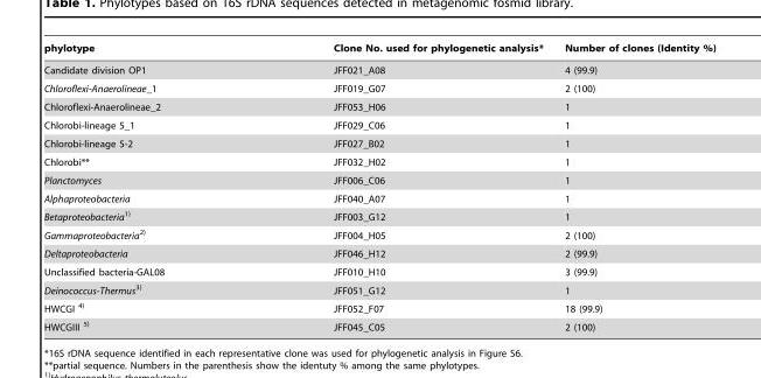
<table><thead><tr><td>phylotype</td><td>Clone No. used for phylogenetic analysis*</td><td>Number of clones (Identity %)</td></tr></thead><tbody><tr><td>Candidate division OP1</td><td>JFF021_A08</td><td>4 (99.9)</td></tr><tr><td>Chloroflexi-Anaerolineae_1</td><td>JFF019_G07</td><td>2 (100)</td></tr><tr><td>Chloroflexi-Anaerolineae_2</td><td>JFF053_H06</td><td>1</td></tr><tr><td>Chlorobi-lineage 5_1</td><td>JFF029_C06</td><td>1</td></tr><tr><td>Chlorobi-lineage 5-2</td><td>JFF027_B02</td><td>1</td></tr><tr><td>Chlorobi**</td><td>JFF032_H02</td><td>1</td></tr><tr><td>Planctomyces</td><td>JFF006_C06</td><td>1</td></tr><tr><td>Alphaproteobacteria</td><td>JFF040_A07</td><td>1</td></tr><tr><td>Betaproteobacteria1)</td><td>JFF003_G12</td><td>1</td></tr><tr><td>Gammaproteobacteria2)</td><td>JFF004_H05</td><td>2 (100)</td></tr><tr><td>Deltaproteobacteria</td><td>JFF046_H12</td><td>2 (99.9)</td></tr><tr><td>Unclassified bacteria-GAL08</td><td>JFF010_H10</td><td>3 (99.9)</td></tr><tr><td>Deinococcus-Thermus3)</td><td>JFF051_G12</td><td>1</td></tr><tr><td>HWCGI 4)</td><td>JFF052_F07</td><td>18 (99.9)</td></tr><tr><td>HWCGIII 5)</td><td>JFF045_C05</td><td>2 (100)</td></tr></tbody></table>